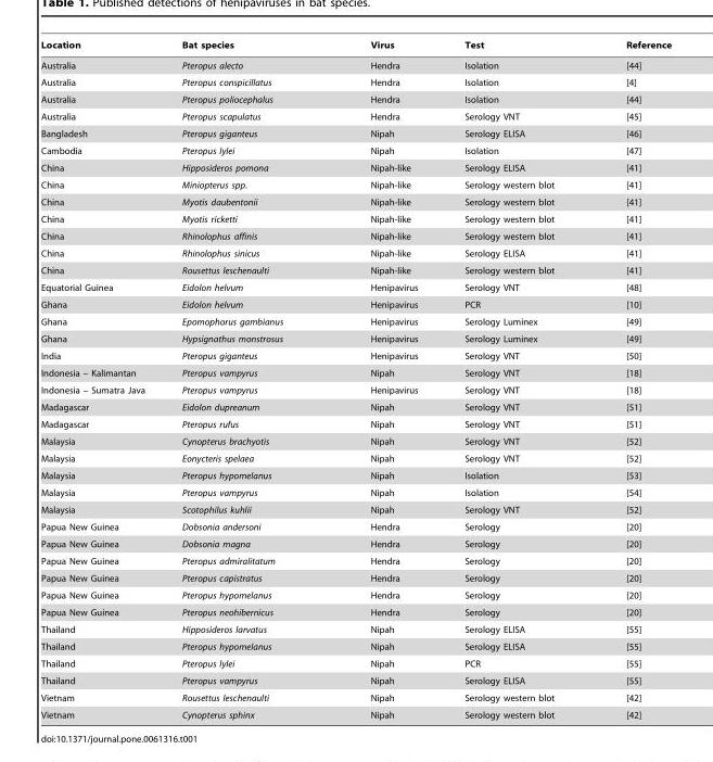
<table><thead><tr><td>Location</td><td>Bat species</td><td>Virus</td><td>Test</td><td>Reference</td></tr></thead><tbody><tr><td>Australia</td><td>Pteropus alecto</td><td>Hendra</td><td>Isolation</td><td>[44]</td></tr><tr><td>Australia</td><td>Pteropus conspicillatus</td><td>Hendra</td><td>Isolation</td><td>[4]</td></tr><tr><td>Australia</td><td>Pteropus poliocephalus</td><td>Hendra</td><td>Isolation</td><td>[44]</td></tr><tr><td>Australia</td><td>Pteropus scapulatus</td><td>Hendra</td><td>Serology VNT</td><td>[45]</td></tr><tr><td>Bangladesh</td><td>Pteropus giganteus</td><td>Nipah</td><td>Serology ELISA</td><td>[46]</td></tr><tr><td>Cambodia</td><td>Pteropus lylei</td><td>Nipah</td><td>Isolation</td><td>[47]</td></tr><tr><td>China</td><td>Hipposideros pomona</td><td>Nipah-like</td><td>Serology ELISA</td><td>[41]</td></tr><tr><td>China</td><td>Miniopterus spp.</td><td>Nipah-like</td><td>Serology western blot</td><td>[41]</td></tr><tr><td>China</td><td>Myotis daubentonii</td><td>Nipah-like</td><td>Serology western blot</td><td>[41]</td></tr><tr><td>China</td><td>Myotis ricketti</td><td>Nipah-like</td><td>Serology western blot</td><td>[41]</td></tr><tr><td>China</td><td>Rhinolophus affinis</td><td>Nipah-like</td><td>Serology western blot</td><td>[41]</td></tr><tr><td>China</td><td>Rhinolophus sinicus</td><td>Nipah-like</td><td>Serology ELISA</td><td>[41]</td></tr><tr><td>China</td><td>Rousettus leschenaulti</td><td>Nipah-like</td><td>Serology western blot</td><td>[41]</td></tr><tr><td>Equatorial Guinea</td><td>Eidolon helvum</td><td>Henipavirus</td><td>Serology VNT</td><td>[48]</td></tr><tr><td>Ghana</td><td>Eidolon helvum</td><td>Henipavirus</td><td>PCR</td><td>[10]</td></tr><tr><td>Ghana</td><td>Epomophorus gambianus</td><td>Henipavirus</td><td>Serology Luminex</td><td>[49]</td></tr><tr><td>Ghana</td><td>Hypsignathus monstrosus</td><td>Henipavirus</td><td>Serology Luminex</td><td>[49]</td></tr><tr><td>India</td><td>Pteropus giganteus</td><td>Henipavirus</td><td>Serology VNT</td><td>[50]</td></tr><tr><td>Indonesia – Kalimantan</td><td>Pteropus vampyrus</td><td>Nipah</td><td>Serology VNT</td><td>[18]</td></tr><tr><td>Indonesia – Sumatra Java</td><td>Pteropus vampyrus</td><td>Henipavirus</td><td>Serology VNT</td><td>[18]</td></tr><tr><td>Madagascar</td><td>Eidolon dupreanum</td><td>Nipah</td><td>Serology VNT</td><td>[51]</td></tr><tr><td>Madagascar</td><td>Pteropus rufus</td><td>Nipah</td><td>Serology VNT</td><td>[51]</td></tr><tr><td>Malaysia</td><td>Cynopterus brachyotis</td><td>Nipah</td><td>Serology VNT</td><td>[52]</td></tr><tr><td>Malaysia</td><td>Eonycteris spelaea</td><td>Nipah</td><td>Serology VNT</td><td>[52]</td></tr><tr><td>Malaysia</td><td>Pteropus hypomelanus</td><td>Nipah</td><td>Isolation</td><td>[53]</td></tr><tr><td>Malaysia</td><td>Pteropus vampyrus</td><td>Nipah</td><td>Isolation</td><td>[54]</td></tr><tr><td>Malaysia</td><td>Scotophilus kuhlii</td><td>Nipah</td><td>Serology VNT</td><td>[52]</td></tr><tr><td>Papua New Guinea</td><td>Dobsonia andersoni</td><td>Hendra</td><td>Serology</td><td>[20]</td></tr><tr><td>Papua New Guinea</td><td>Dobsonia magna</td><td>Hendra</td><td>Serology</td><td>[20]</td></tr><tr><td>Papua New Guinea</td><td>Pteropus admiralitatum</td><td>Hendra</td><td>Serology</td><td>[20]</td></tr><tr><td>Papua New Guinea</td><td>Pteropus capistratus</td><td>Hendra</td><td>Serology</td><td>[20]</td></tr><tr><td>Papua New Guinea</td><td>Pteropus hypomelanus</td><td>Hendra</td><td>Serology</td><td>[20]</td></tr><tr><td>Papua New Guinea</td><td>Pteropus neohibernicus</td><td>Hendra</td><td>Serology</td><td>[20]</td></tr><tr><td>Thailand</td><td>Hipposideros larvatus</td><td>Nipah</td><td>Serology ELISA</td><td>[55]</td></tr><tr><td>Thailand</td><td>Pteropus hypomelanus</td><td>Nipah</td><td>Serology ELISA</td><td>[55]</td></tr><tr><td>Thailand</td><td>Pteropus lylei</td><td>Nipah</td><td>PCR</td><td>[55]</td></tr><tr><td>Thailand</td><td>Pteropus vampyrus</td><td>Nipah</td><td>Serology ELISA</td><td>[55]</td></tr><tr><td>Vietnam</td><td>Rousettus leschenaulti</td><td>Nipah</td><td>Serology western blot</td><td>[42]</td></tr><tr><td>Vietnam</td><td>Cynopterus sphinx</td><td>Nipah</td><td>Serology western blot</td><td>[42]</td></tr></tbody></table>